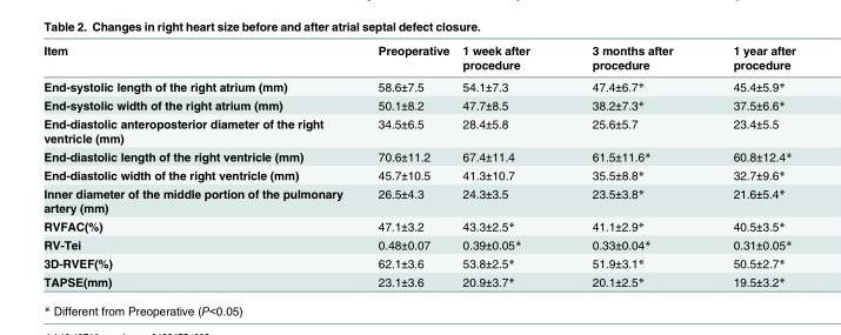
<table><thead><tr><td>Item</td><td>Preoperative</td><td>1 week after procedure</td><td>3 months after procedure</td><td>1 year after procedure</td></tr></thead><tbody><tr><td>End-systolic length of the right atrium (mm)</td><td>58.6±7.5</td><td>54.1±7.3</td><td>47.4±6.7*</td><td>45.4±5.9*</td></tr><tr><td>End-systolic width of the right atrium (mm)</td><td>50.1±8.2</td><td>47.7±8.5</td><td>38.2±7.3*</td><td>37.5±6.6*</td></tr><tr><td>End-diastolic anteroposterior diameter of the right ventricle (mm)</td><td>34.5±6.5</td><td>28.4±5.8</td><td>25.6±5.7</td><td>23.4±5.5</td></tr><tr><td>End-diastolic length of the right ventricle (mm)</td><td>70.6±11.2</td><td>67.4±11.4</td><td>61.5±11.6*</td><td>60.8±12.4*</td></tr><tr><td>End-diastolic width of the right ventricle (mm)</td><td>45.7±10.5</td><td>41.3±10.7</td><td>35.5±8.8*</td><td>32.7±9.6*</td></tr><tr><td>Inner diameter of the middle portion of the pulmonary artery (mm)</td><td>26.5±4.3</td><td>24.3±3.5</td><td>23.5±3.8*</td><td>21.6±5.4*</td></tr><tr><td>RVFAC(%)</td><td>47.1±3.2</td><td>43.3±2.5*</td><td>41.1±2.9*</td><td>40.5±3.5*</td></tr><tr><td>RV-Tei</td><td>0.48±0.07</td><td>0.39±0.05*</td><td>0.33±0.04*</td><td>0.31±0.05*</td></tr><tr><td>3D-RVEF(%)</td><td>62.1±3.6</td><td>53.8±2.5*</td><td>51.9±3.1*</td><td>50.5±2.7*</td></tr><tr><td>TAPSE(mm)</td><td>23.1±3.6</td><td>20.9±3.7*</td><td>20.1±2.5*</td><td>19.5±3.2*</td></tr></tbody></table>